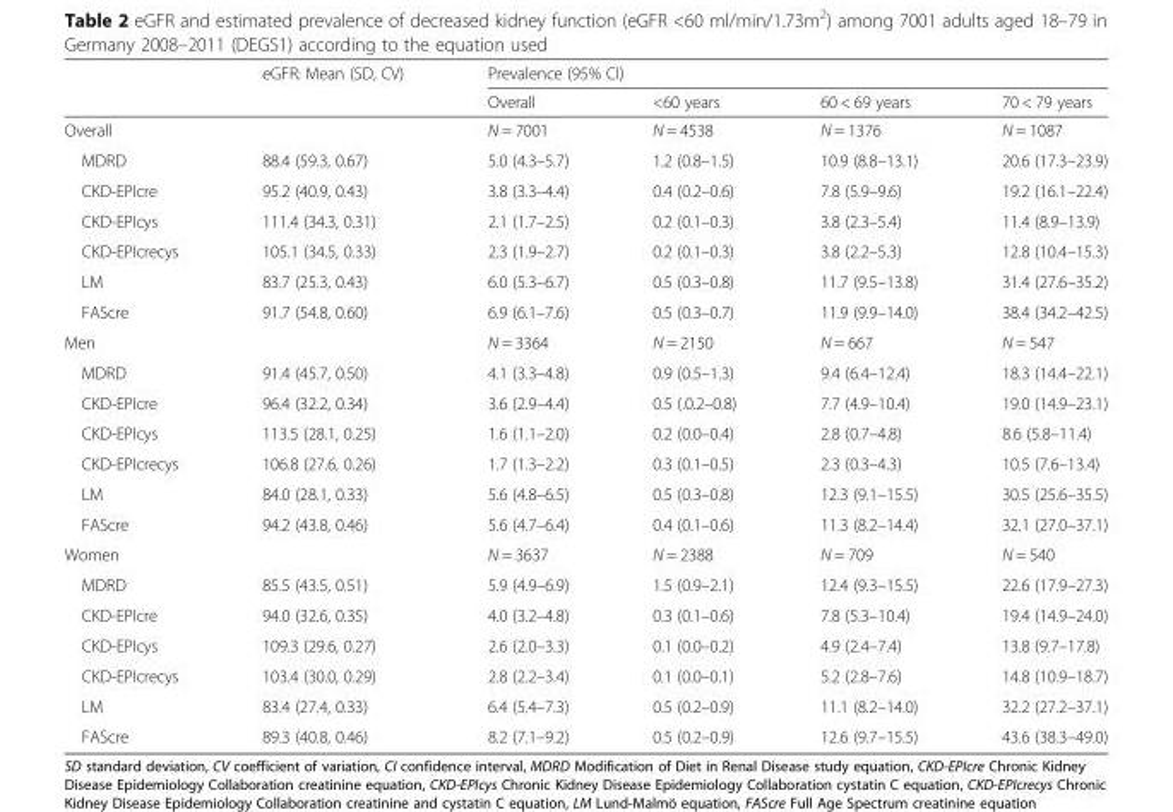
<table><thead><tr><td rowspan="2"></td><td rowspan="2">eGFR: Mean (SD, CV)</td><td colspan="4">Prevalence (95% CI)</td></tr><tr><td>Overall</td><td>&lt;60 years</td><td>60 &lt; 69 years</td><td>70 &lt; 79 years</td></tr></thead><tbody><tr><td>Overall</td><td></td><td>N = 7001</td><td>N = 4538</td><td>N = 1376</td><td>N = 1087</td></tr><tr><td>MDRD</td><td>88.4 (59.3, 0.67)</td><td>5.0 (4.3–5.7)</td><td>1.2 (0.8–1.5)</td><td>10.9 (8.8–13.1)</td><td>20.6 (17.3–23.9)</td></tr><tr><td>CKD-EPIcre</td><td>95.2 (40.9, 0.43)</td><td>3.8 (3.3–4.4)</td><td>0.4 (0.2–0.6)</td><td>7.8 (5.9–9.6)</td><td>19.2 (16.1–22.4)</td></tr><tr><td>CKD-EPIcys</td><td>111.4 (34.3, 0.31)</td><td>2.1 (1.7–2.5)</td><td>0.2 (0.1–0.3)</td><td>3.8 (2.3–5.4)</td><td>11.4 (8.9–13.9)</td></tr><tr><td>CKD-EPIcrecys</td><td>105.1 (34.5, 0.33)</td><td>2.3 (1.9–2.7)</td><td>0.2 (0.1–0.3)</td><td>3.8 (2.2–5.3)</td><td>12.8 (10.4–15.3)</td></tr><tr><td>LM</td><td>83.7 (25.3, 0.43)</td><td>6.0 (5.3–6.7)</td><td>0.5 (0.3–0.8)</td><td>11.7 (9.5–13.8)</td><td>31.4 (27.6–35.2)</td></tr><tr><td>FAScre</td><td>91.7 (54.8, 0.60)</td><td>6.9 (6.1–7.6)</td><td>0.5 (0.3–0.7)</td><td>11.9 (9.9–14.0)</td><td>38.4 (34.2–42.5)</td></tr><tr><td>Men</td><td></td><td>N = 3364</td><td>N = 2150</td><td>N = 667</td><td>N = 547</td></tr><tr><td>MDRD</td><td>91.4 (45.7, 0.50)</td><td>4.1 (3.3–4.8)</td><td>0.9 (0.5–1.3)</td><td>9.4 (6.4–12.4)</td><td>18.3 (14.4–22.1)</td></tr><tr><td>CKD-EPIcre</td><td>96.4 (32.2, 0.34)</td><td>3.6 (2.9–4.4)</td><td>0.5 (.0.2–0.8)</td><td>7.7 (4.9–10.4)</td><td>19.0 (14.9–23.1)</td></tr><tr><td>CKD-EPIcys</td><td>113.5 (28.1, 0.25)</td><td>1.6 (1.1–2.0)</td><td>0.2 (0.0–0.4)</td><td>2.8 (0.7–4.8)</td><td>8.6 (5.8–11.4)</td></tr><tr><td>CKD-EPIcrecys</td><td>106.8 (27.6, 0.26)</td><td>1.7 (1.3–2.2)</td><td>0.3 (0.1–0.5)</td><td>2.3 (0.3–4.3)</td><td>10.5 (7.6–13.4)</td></tr><tr><td>LM</td><td>84.0 (28.1, 0.33)</td><td>5.6 (4.8–6.5)</td><td>0.5 (0.3–0.8)</td><td>12.3 (9.1–15.5)</td><td>30.5 (25.6–35.5)</td></tr><tr><td>FAScre</td><td>94.2 (43.8, 0.46)</td><td>5.6 (4.7–6.4)</td><td>0.4 (0.1–0.6)</td><td>11.3 (8.2–14.4)</td><td>32.1 (27.0–37.1)</td></tr><tr><td>Women</td><td></td><td>N = 3637</td><td>N = 2388</td><td>N = 709</td><td>N = 540</td></tr><tr><td>MDRD</td><td>85.5 (43.5, 0.51)</td><td>5.9 (4.9–6.9)</td><td>1.5 (0.9–2.1)</td><td>12.4 (9.3–15.5)</td><td>22.6 (17.9–27.3)</td></tr><tr><td>CKD-EPIcre</td><td>94.0 (32.6, 0.35)</td><td>4.0 (3.2–4.8)</td><td>0.3 (0.1–0.6)</td><td>7.8 (5.3–10.4)</td><td>19.4 (14.9–24.0)</td></tr><tr><td>CKD-EPIcys</td><td>109.3 (29.6, 0.27)</td><td>2.6 (2.0–3.3)</td><td>0.1 (0.0–0.2)</td><td>4.9 (2.4–7.4)</td><td>13.8 (9.7–17.8)</td></tr><tr><td>CKD-EPIcrecys</td><td>103.4 (30.0, 0.29)</td><td>2.8 (2.2–3.4)</td><td>0.1 (0.0–0.1)</td><td>5.2 (2.8–7.6)</td><td>14.8 (10.9–18.7)</td></tr><tr><td>LM</td><td>83.4 (27.4, 0.33)</td><td>6.4 (5.4–7.3)</td><td>0.5 (0.2–0.9)</td><td>11.1 (8.2–14.0)</td><td>32.2 (27.2–37.1)</td></tr><tr><td>FAScre</td><td>89.3 (40.8, 0.46)</td><td>8.2 (7.1–9.2)</td><td>0.5 (0.2–0.9)</td><td>12.6 (9.7–15.5)</td><td>43.6 (38.3–49.0)</td></tr></tbody></table>